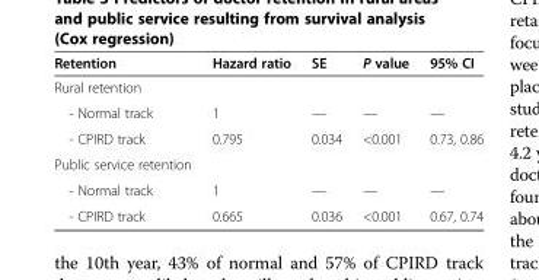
<table><thead><tr><td>Retention</td><td>Hazard ratio</td><td>SE</td><td>P value</td><td>95% CI</td></tr></thead><tbody><tr><td colspan="5">Rural retention</td></tr><tr><td>- Normal track</td><td>1</td><td>—</td><td>—</td><td>—</td></tr><tr><td>- CPIRD track</td><td>0.795</td><td>0.034</td><td>&lt;0.001</td><td>0.73, 0.86</td></tr><tr><td colspan="5">Public service retention</td></tr><tr><td>- Normal track</td><td>1</td><td>—</td><td>—</td><td>—</td></tr><tr><td>- CPIRD track</td><td>0.665</td><td>0.036</td><td>&lt;0.001</td><td>0.67, 0.74</td></tr></tbody></table>